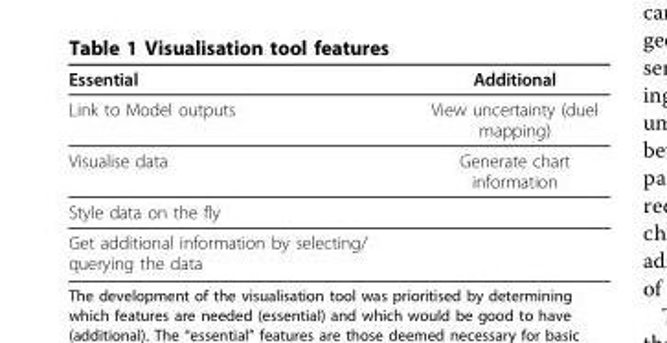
<table><thead><tr><td>Essential</td><td>Additional</td></tr></thead><tbody><tr><td>Link to Model outputs</td><td>View uncertainty (duel mapping)</td></tr><tr><td>Visualise data</td><td>Generate chart information</td></tr><tr><td colspan="2">Style data on the fly</td></tr><tr><td>Get additional information by selecting/ querying the data</td><td></td></tr></tbody></table>